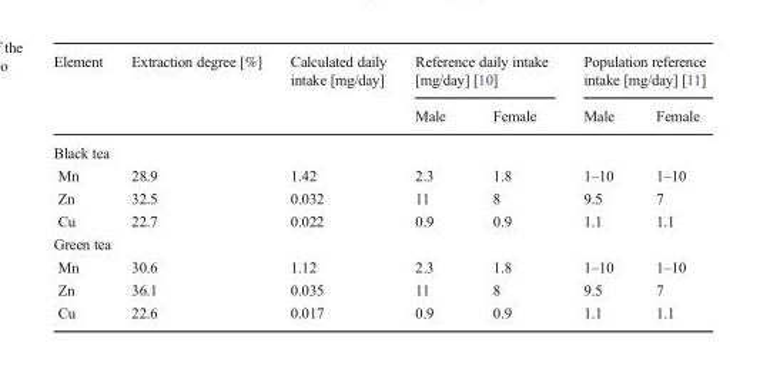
<table><thead><tr><td rowspan="2">Element</td><td rowspan="2">Extraction degree [%]</td><td rowspan="2">Calculated daily intake [mg/day]</td><td colspan="2">Reference daily intake [mg/day] [10]</td><td colspan="2">Population reference intake [mg/day] [11]</td></tr><tr><td>Male</td><td>Female</td><td>Male</td><td>Female</td></tr></thead><tbody><tr><td colspan="7">Black tea</td></tr><tr><td>Mn</td><td>28.9</td><td>1.42</td><td>2.3</td><td>1.8</td><td>1–10</td><td>1–10</td></tr><tr><td>Zn</td><td>32.5</td><td>0.032</td><td>11</td><td>8</td><td>9.5</td><td>7</td></tr><tr><td>Cu</td><td>22.7</td><td>0.022</td><td>0.9</td><td>0.9</td><td>1.1</td><td>1.1</td></tr><tr><td colspan="7">Green tea</td></tr><tr><td>Mn</td><td>30.6</td><td>1.12</td><td>2.3</td><td>1.8</td><td>1–10</td><td>1–10</td></tr><tr><td>Zn</td><td>36.1</td><td>0.035</td><td>11</td><td>8</td><td>9.5</td><td>7</td></tr><tr><td>Cu</td><td>22.6</td><td>0.017</td><td>0.9</td><td>0.9</td><td>1.1</td><td>1.1</td></tr></tbody></table>